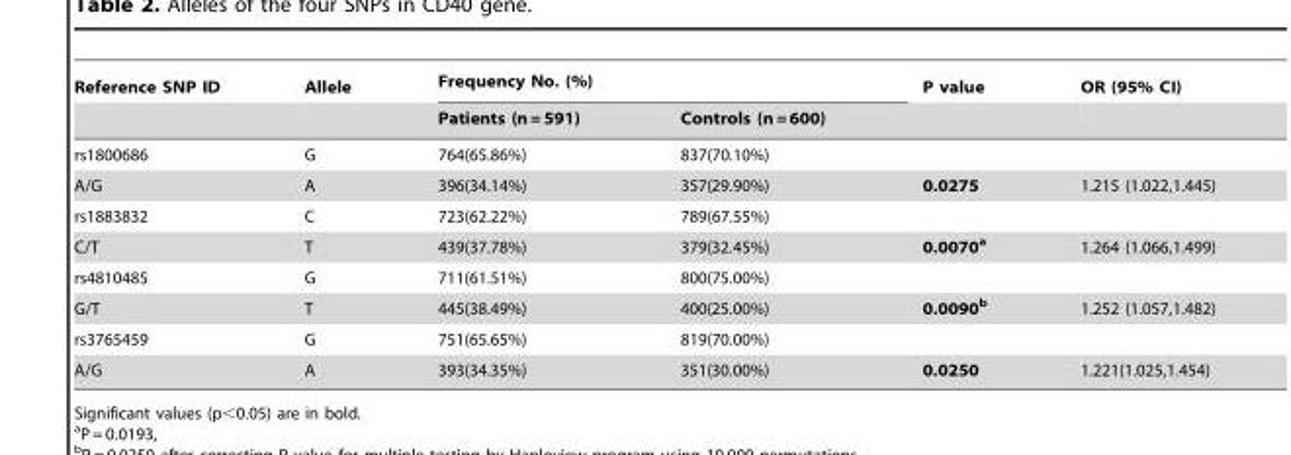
<table><thead><tr><td rowspan="2">Reference SNP ID</td><td rowspan="2">Allele</td><td colspan="2">Frequency No. (%)</td><td rowspan="2">P value</td><td rowspan="2">OR (95% CI)</td></tr><tr><td>Patients (n = 591)</td><td>Controls (n = 600)</td></tr></thead><tbody><tr><td>rs1800686</td><td>G</td><td>764(65.86%)</td><td>837(70.10%)</td><td></td><td></td></tr><tr><td>A/G</td><td>A</td><td>396(34.14%)</td><td>357(29.90%)</td><td>0.0275</td><td>1.215 (1.022,1.445)</td></tr><tr><td>rs1883832</td><td>C</td><td>723(62.22%)</td><td>789(67.55%)</td><td></td><td></td></tr><tr><td>C/T</td><td>T</td><td>439(37.78%)</td><td>379(32.45%)</td><td>0.0070a</td><td>1.264 (1.066,1.499)</td></tr><tr><td>rs4810485</td><td>G</td><td>711(61.51%)</td><td>800(75.00%)</td><td></td><td></td></tr><tr><td>G/T</td><td>T</td><td>445(38.49%)</td><td>400(25.00%)</td><td>0.0090b</td><td>1.252 (1.057,1.482)</td></tr><tr><td>rs3765459</td><td>G</td><td>751(65.65%)</td><td>819(70.00%)</td><td></td><td></td></tr><tr><td>A/G</td><td>A</td><td>393(34.35%)</td><td>351(30.00%)</td><td>0.0250</td><td>1.221(1.025,1.454)</td></tr></tbody></table>